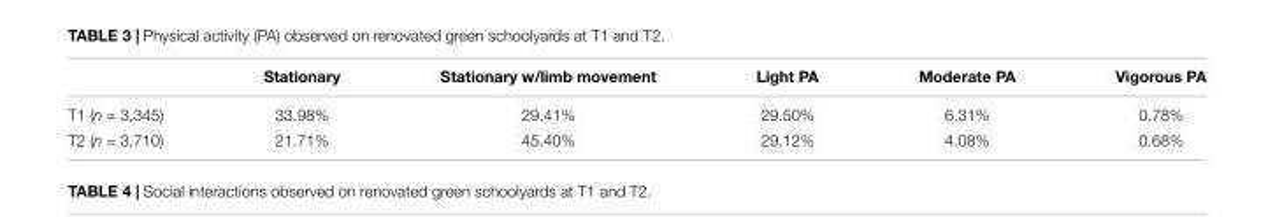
<table><thead><tr><td></td><td>Stationary</td><td>Stationary w/limb movement</td><td>Light PA</td><td>Moderate PA</td><td>Vigorous PA</td></tr></thead><tbody><tr><td>T1 (n = 3,345)</td><td>33.98%</td><td>29.41%</td><td>29.50%</td><td>6.31%</td><td>0.78%</td></tr><tr><td>T2 (n = 3,710)</td><td>21.71%</td><td>45.40%</td><td>29.12%</td><td>4.08%</td><td>0.68%</td></tr></tbody></table>